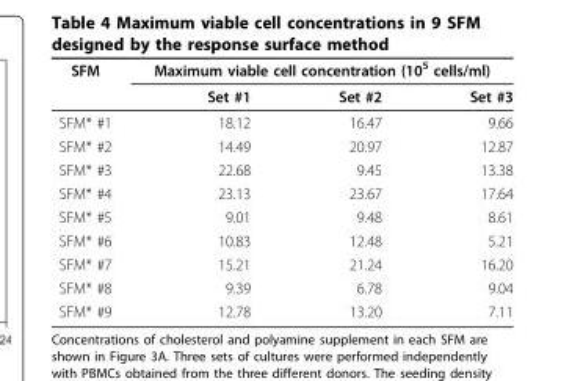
<table><thead><tr><td rowspan="2">SFM</td><td colspan="3">Maximum viable cell concentration (10<sup>5</sup> cells/ml)</td></tr><tr><td>Set #1</td><td>Set #2</td><td>Set #3</td></tr></thead><tbody><tr><td>SFM* #1</td><td>18.12</td><td>16.47</td><td>9.66</td></tr><tr><td>SFM* #2</td><td>14.49</td><td>20.97</td><td>12.87</td></tr><tr><td>SFM* #3</td><td>22.68</td><td>9.45</td><td>13.38</td></tr><tr><td>SFM* #4</td><td>23.13</td><td>23.67</td><td>17.64</td></tr><tr><td>SFM* #5</td><td>9.01</td><td>9.48</td><td>8.61</td></tr><tr><td>SFM* #6</td><td>10.83</td><td>12.48</td><td>5.21</td></tr><tr><td>SFM* #7</td><td>15.21</td><td>21.24</td><td>16.20</td></tr><tr><td>SFM* #8</td><td>9.39</td><td>6.78</td><td>9.04</td></tr><tr><td>SFM* #9</td><td>12.78</td><td>13.20</td><td>7.11</td></tr></tbody></table>